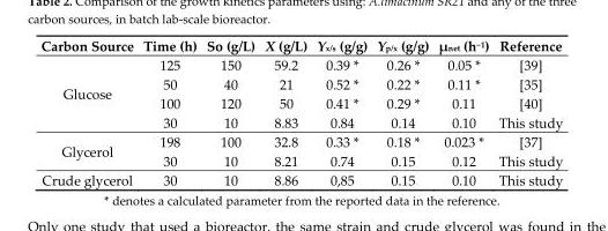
<table><thead><tr><td>Carbon Source</td><td>Time (h)</td><td>So (g/L)</td><td>X (g/L)</td><td>Y<sub>x/s</sub> (g/g)</td><td>Y<sub>p/x</sub> (g/g)</td><td>μ<sub>net</sub> (h<sup>−1</sup>)</td><td>Reference</td></tr></thead><tbody><tr><td rowspan="4">Glucose</td><td>125</td><td>150</td><td>59.2</td><td>0.39 *</td><td>0.26 *</td><td>0.05 *</td><td>[39]</td></tr><tr><td>50</td><td>40</td><td>21</td><td>0.52 *</td><td>0.22 *</td><td>0.11 *</td><td>[35]</td></tr><tr><td>100</td><td>120</td><td>50</td><td>0.41 *</td><td>0.29 *</td><td>0.11</td><td>[40]</td></tr><tr><td>30</td><td>10</td><td>8.83</td><td>0.84</td><td>0.14</td><td>0.10</td><td>This study</td></tr><tr><td rowspan="2">Glycerol</td><td>198</td><td>100</td><td>32.8</td><td>0.33 *</td><td>0.18 *</td><td>0.023 *</td><td>[37]</td></tr><tr><td>30</td><td>10</td><td>8.21</td><td>0.74</td><td>0.15</td><td>0.12</td><td>This study</td></tr><tr><td>Crude glycerol</td><td>30</td><td>10</td><td>8.86</td><td>0,85</td><td>0.15</td><td>0.10</td><td>This study</td></tr></tbody></table>